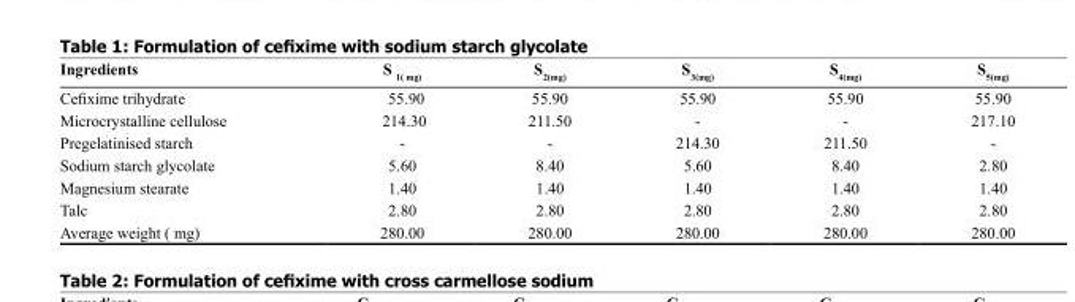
<table><thead><tr><td>Ingredients</td><td>S <sub>1( mg)</sub></td><td>S<sub>2(mg)</sub></td><td>S<sub>3(mg)</sub></td><td>S<sub>4(mg)</sub></td><td>S<sub>5(mg)</sub></td></tr></thead><tbody><tr><td>Cefixime trihydrate</td><td>55.90</td><td>55.90</td><td>55.90</td><td>55.90</td><td>55.90</td></tr><tr><td>Microcrystalline cellulose</td><td>214.30</td><td>211.50</td><td>-</td><td>-</td><td>217.10</td></tr><tr><td>Pregelatinised starch</td><td>-</td><td>-</td><td>214.30</td><td>211.50</td><td>-</td></tr><tr><td>Sodium starch glycolate</td><td>5.60</td><td>8.40</td><td>5.60</td><td>8.40</td><td>2.80</td></tr><tr><td>Magnesium stearate</td><td>1.40</td><td>1.40</td><td>1.40</td><td>1.40</td><td>1.40</td></tr><tr><td>Talc</td><td>2.80</td><td>2.80</td><td>2.80</td><td>2.80</td><td>2.80</td></tr><tr><td>Average weight ( mg)</td><td>280.00</td><td>280.00</td><td>280.00</td><td>280.00</td><td>280.00</td></tr></tbody></table>